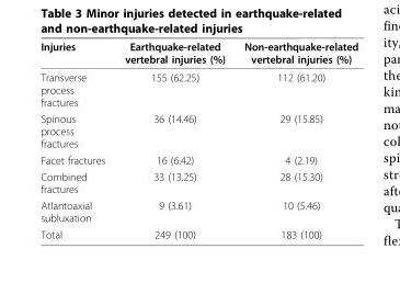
<table><thead><tr><td>Injuries</td><td>Earthquake-related vertebral injuries (%)</td><td>Non-earthquake-related vertebral injuries (%)</td></tr></thead><tbody><tr><td>Transverse process fractures</td><td>155 (62.25)</td><td>112 (61.20)</td></tr><tr><td>Spinous process fractures</td><td>36 (14.46)</td><td>29 (15.85)</td></tr><tr><td>Facet fractures</td><td>16 (6.42)</td><td>4 (2.19)</td></tr><tr><td>Combined fractures</td><td>33 (13.25)</td><td>28 (15.30)</td></tr><tr><td>Atlantoaxial subluxation</td><td>9 (3.61)</td><td>10 (5.46)</td></tr><tr><td>Total</td><td>249 (100)</td><td>183 (100)</td></tr></tbody></table>